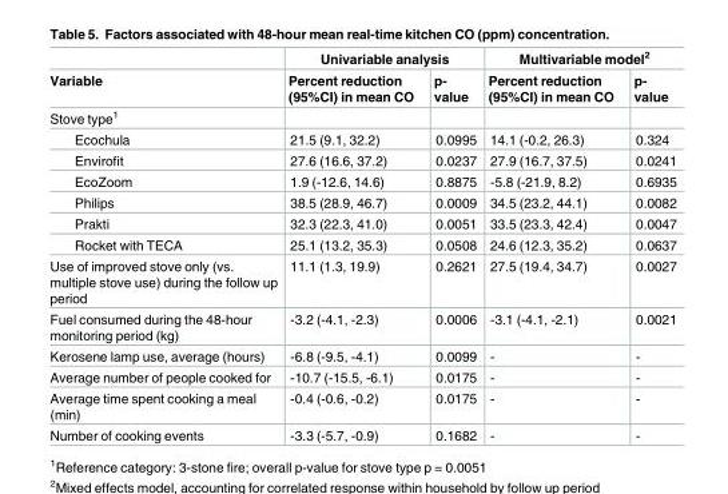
<table><thead><tr><td rowspan="2">Variable</td><td colspan="2">Univariable analysis</td><td colspan="2">Multivariable model<sup>2</sup></td></tr><tr><td>Percent reduction (95%CI) in mean CO</td><td>p- value</td><td>Percent reduction (95%CI) in mean CO</td><td>p- value</td></tr></thead><tbody><tr><td colspan="5">Stove type<sup>1</sup></td></tr><tr><td>Ecochula</td><td>21.5 (9.1, 32.2)</td><td>0.0995</td><td>14.1 (-0.2, 26.3)</td><td>0.324</td></tr><tr><td>Envirofit</td><td>27.6 (16.6, 37.2)</td><td>0.0237</td><td>27.9 (16.7, 37.5)</td><td>0.0241</td></tr><tr><td>EcoZoom</td><td>1.9 (-12.6, 14.6)</td><td>0.8875</td><td>-5.8 (-21.9, 8.2)</td><td>0.6935</td></tr><tr><td>Philips</td><td>38.5 (28.9, 46.7)</td><td>0.0009</td><td>34.5 (23.2, 44.1)</td><td>0.0082</td></tr><tr><td>Prakti</td><td>32.3 (22.3, 41.0)</td><td>0.0051</td><td>33.5 (23.3, 42.4)</td><td>0.0047</td></tr><tr><td>Rocket with TECA</td><td>25.1 (13.2, 35.3)</td><td>0.0508</td><td>24.6 (12.3, 35.2)</td><td>0.0637</td></tr><tr><td>Use of improved stove only (vs. multiple stove use) during the follow up period</td><td>11.1 (1.3, 19.9)</td><td>0.2621</td><td>27.5 (19.4, 34.7)</td><td>0.0027</td></tr><tr><td>Fuel consumed during the 48-hour monitoring period (kg)</td><td>-3.2 (-4.1, -2.3)</td><td>0.0006</td><td>-3.1 (-4.1, -2.1)</td><td>0.0021</td></tr><tr><td>Kerosene lamp use, average (hours)</td><td>-6.8 (-9.5, -4.1)</td><td>0.0099</td><td>-</td><td>-</td></tr><tr><td>Average number of people cooked for</td><td>-10.7 (-15.5, -6.1)</td><td>0.0175</td><td>-</td><td>-</td></tr><tr><td>Average time spent cooking a meal (min)</td><td>-0.4 (-0.6, -0.2)</td><td>0.0175</td><td>-</td><td>-</td></tr><tr><td>Number of cooking events</td><td>-3.3 (-5.7, -0.9)</td><td>0.1682</td><td>-</td><td>-</td></tr></tbody></table>